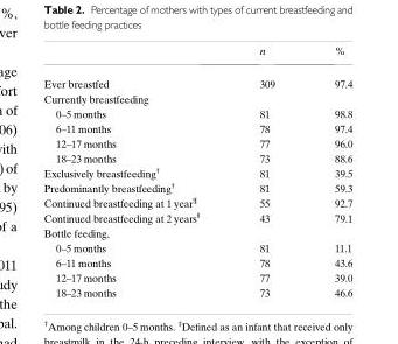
<table><thead><tr><td></td><td>n</td><td>%</td></tr></thead><tbody><tr><td>Ever breastfed</td><td>309</td><td>97.4</td></tr><tr><td colspan="3">Currently breastfeeding</td></tr><tr><td>0–5 months</td><td>81</td><td>98.8</td></tr><tr><td>6–11 months</td><td>78</td><td>97.4</td></tr><tr><td>12–17 months</td><td>77</td><td>96.0</td></tr><tr><td>18–23 months</td><td>73</td><td>88.6</td></tr><tr><td>Exclusively breastfeeding†</td><td>81</td><td>39.5</td></tr><tr><td>Predominantly breastfeeding†</td><td>81</td><td>59.3</td></tr><tr><td>Continued breastfeeding at 1 year¶</td><td>55</td><td>92.7</td></tr><tr><td>Continued breastfeeding at 2 years∥</td><td>43</td><td>79.1</td></tr><tr><td colspan="3">Bottle feeding,</td></tr><tr><td>0–5 months</td><td>81</td><td>11.1</td></tr><tr><td>6–11 months</td><td>78</td><td>43.6</td></tr><tr><td>12–17 months</td><td>77</td><td>39.0</td></tr><tr><td>18–23 months</td><td>73</td><td>46.6</td></tr></tbody></table>